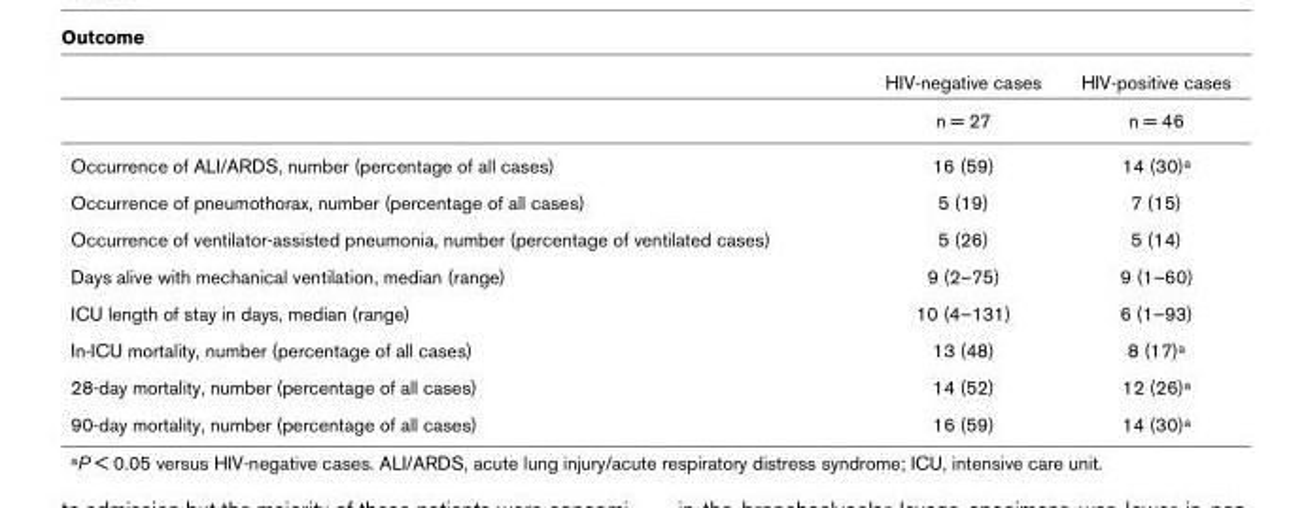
<table><thead><tr><td></td><td>HIV-negative cases</td><td>HIV-positive cases</td></tr></thead><tbody><tr><td></td><td>n = 27</td><td>n = 46</td></tr><tr><td>Occurrence of ALI/ARDS, number (percentage of all cases)</td><td>16 (59)</td><td>14 (30)<sup>a</sup></td></tr><tr><td>Occurrence of pneumothorax, number (percentage of all cases)</td><td>5 (19)</td><td>7 (15)</td></tr><tr><td>Occurrence of ventilator-assisted pneumonia, number (percentage of ventilated cases)</td><td>5 (26)</td><td>5 (14)</td></tr><tr><td>Days alive with mechanical ventilation, median (range)</td><td>9 (2–75)</td><td>9 (1–60)</td></tr><tr><td>ICU length of stay in days, median (range)</td><td>10 (4–131)</td><td>6 (1–93)</td></tr><tr><td>In-ICU mortality, number (percentage of all cases)</td><td>13 (48)</td><td>8 (17)<sup>a</sup></td></tr><tr><td>28-day mortality, number (percentage of all cases)</td><td>14 (52)</td><td>12 (26)<sup>a</sup></td></tr><tr><td>90-day mortality, number (percentage of all cases)</td><td>16 (59)</td><td>14 (30)<sup>a</sup></td></tr></tbody></table>